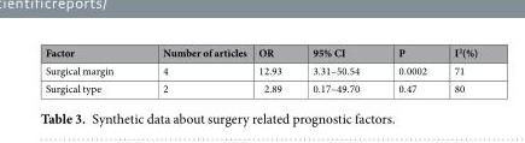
<table><thead><tr><td>Factor</td><td>Number of articles</td><td>OR</td><td>95% CI</td><td>P</td><td>I<sup>2</sup>(%)</td></tr></thead><tbody><tr><td>Surgical margin</td><td>4</td><td>12.93</td><td>3.31–50.54</td><td>0.0002</td><td>71</td></tr><tr><td>Surgical type</td><td>2</td><td>2.89</td><td>0.17–49.70</td><td>0.47</td><td>80</td></tr></tbody></table>